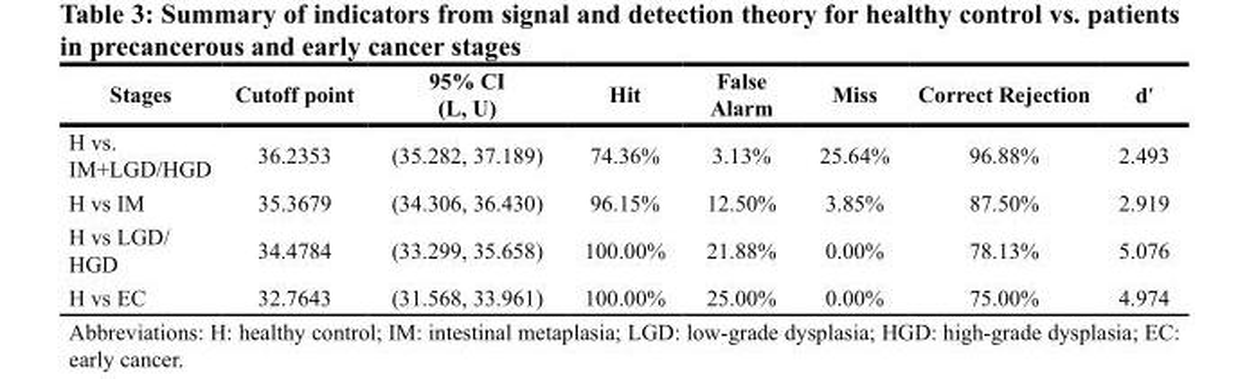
<table><thead><tr><td>Stages</td><td>Cutoff point</td><td>95% CI (L, U)</td><td>Hit</td><td>False Alarm</td><td>Miss</td><td>Correct Rejection</td><td>dʹ</td></tr></thead><tbody><tr><td>H vs. IM+LGD/HGD</td><td>36.2353</td><td>(35.282, 37.189)</td><td>74.36%</td><td>3.13%</td><td>25.64%</td><td>96.88%</td><td>2.493</td></tr><tr><td>H vs IM</td><td>35.3679</td><td>(34.306, 36.430)</td><td>96.15%</td><td>12.50%</td><td>3.85%</td><td>87.50%</td><td>2.919</td></tr><tr><td>H vs LGD/ HGD</td><td>34.4784</td><td>(33.299, 35.658)</td><td>100.00%</td><td>21.88%</td><td>0.00%</td><td>78.13%</td><td>5.076</td></tr><tr><td>H vs EC</td><td>32.7643</td><td>(31.568, 33.961)</td><td>100.00%</td><td>25.00%</td><td>0.00%</td><td>75.00%</td><td>4.974</td></tr></tbody></table>